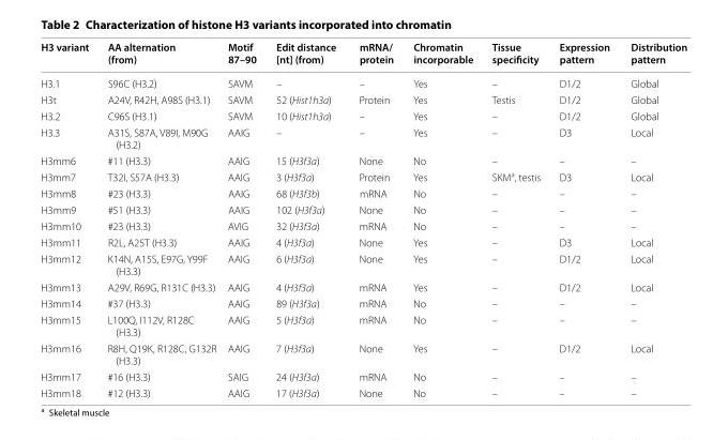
<table><thead><tr><td>H3 variant</td><td>AA alternation (from)</td><td>Motif 87–90</td><td>Edit distance [nt] (from)</td><td>mRNA/ protein</td><td>Chromatin incorporable</td><td>Tissue specificity</td><td>Expression pattern</td><td>Distribution pattern</td></tr></thead><tbody><tr><td>H3.1</td><td>S96C (H3.2)</td><td>SAVM</td><td>–</td><td>–</td><td>Yes</td><td>–</td><td>D1/2</td><td>Global</td></tr><tr><td>H3t</td><td>A24V, R42H, A98S (H3.1)</td><td>SAVM</td><td>52 (Hist1h3a)</td><td>Protein</td><td>Yes</td><td>Testis</td><td>D1/2</td><td>Global</td></tr><tr><td>H3.2</td><td>C96S (H3.1)</td><td>SAVM</td><td>10 (Hist1h3a)</td><td>–</td><td>Yes</td><td>–</td><td>D1/2</td><td>Global</td></tr><tr><td>H3.3</td><td>A31S, S87A, V89I, M90G (H3.2)</td><td>AAIG</td><td>–</td><td>–</td><td>Yes</td><td>–</td><td>D3</td><td>Local</td></tr><tr><td>H3mm6</td><td>#11 (H3.3)</td><td>AAIG</td><td>15 (H3f3a)</td><td>None</td><td>No</td><td>–</td><td>–</td><td>–</td></tr><tr><td>H3mm7</td><td>T32I, S57A (H3.3)</td><td>AAIG</td><td>3 (H3f3a)</td><td>Protein</td><td>Yes</td><td>SKM<sup>a</sup>, testis</td><td>D3</td><td>Local</td></tr><tr><td>H3mm8</td><td>#23 (H3.3)</td><td>AAIG</td><td>68 (H3f3b)</td><td>mRNA</td><td>No</td><td>–</td><td>–</td><td>–</td></tr><tr><td>H3mm9</td><td>#51 (H3.3)</td><td>AAIG</td><td>102 (H3f3a)</td><td>None</td><td>No</td><td>–</td><td>–</td><td>–</td></tr><tr><td>H3mm10</td><td>#23 (H3.3)</td><td>AVIG</td><td>32 (H3f3a)</td><td>mRNA</td><td>No</td><td>–</td><td>–</td><td>–</td></tr><tr><td>H3mm11</td><td>R2L, A25T (H3.3)</td><td>AAIG</td><td>4 (H3f3a)</td><td>None</td><td>Yes</td><td>–</td><td>D3</td><td>Local</td></tr><tr><td>H3mm12</td><td>K14N, A15S, E97G, Y99F (H3.3)</td><td>AAIG</td><td>6 (H3f3a)</td><td>None</td><td>Yes</td><td>–</td><td>D1/2</td><td>Local</td></tr><tr><td>H3mm13</td><td>A29V, R69G, R131C (H3.3)</td><td>AAIG</td><td>4 (H3f3a)</td><td>mRNA</td><td>Yes</td><td>–</td><td>D1/2</td><td>Local</td></tr><tr><td>H3mm14</td><td>#37 (H3.3)</td><td>AAIG</td><td>89 (H3f3a)</td><td>mRNA</td><td>No</td><td>–</td><td>–</td><td>–</td></tr><tr><td>H3mm15</td><td>L100Q, I112V, R128C (H3.3)</td><td>AAIG</td><td>5 (H3f3a)</td><td>mRNA</td><td>No</td><td>–</td><td>–</td><td>–</td></tr><tr><td>H3mm16</td><td>R8H, Q19K, R128C, G132R (H3.3)</td><td>AAIG</td><td>7 (H3f3a)</td><td>None</td><td>Yes</td><td>–</td><td>D1/2</td><td>Local</td></tr><tr><td>H3mm17</td><td>#16 (H3.3)</td><td>SAIG</td><td>24 (H3f3a)</td><td>mRNA</td><td>No</td><td>–</td><td>–</td><td>–</td></tr><tr><td>H3mm18</td><td>#12 (H3.3)</td><td>AAIG</td><td>17 (H3f3a)</td><td>None</td><td>No</td><td>–</td><td>–</td><td>–</td></tr></tbody></table>